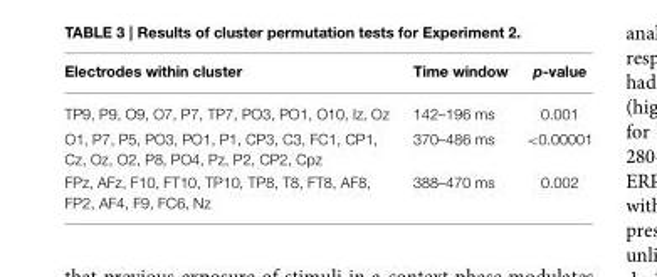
<table><thead><tr><td>Electrodes within cluster</td><td>Time window</td><td>p-value</td></tr></thead><tbody><tr><td>TP9, P9, O9, O7, P7, TP7, PO3, PO1, O10, Iz, Oz</td><td>142–196 ms</td><td>0.001</td></tr><tr><td>O1, P7, P5, PO3, PO1, P1, CP3, C3, FC1, CP1, Cz, Oz, O2, P8, PO4, Pz, P2, CP2, Cpz</td><td>370–486 ms</td><td>&lt;0.00001</td></tr><tr><td>FPz, AFz, F10, FT10, TP10, TP8, T8, FT8, AF8, FP2, AF4, F9, FC6, Nz</td><td>388–470 ms</td><td>0.002</td></tr></tbody></table>